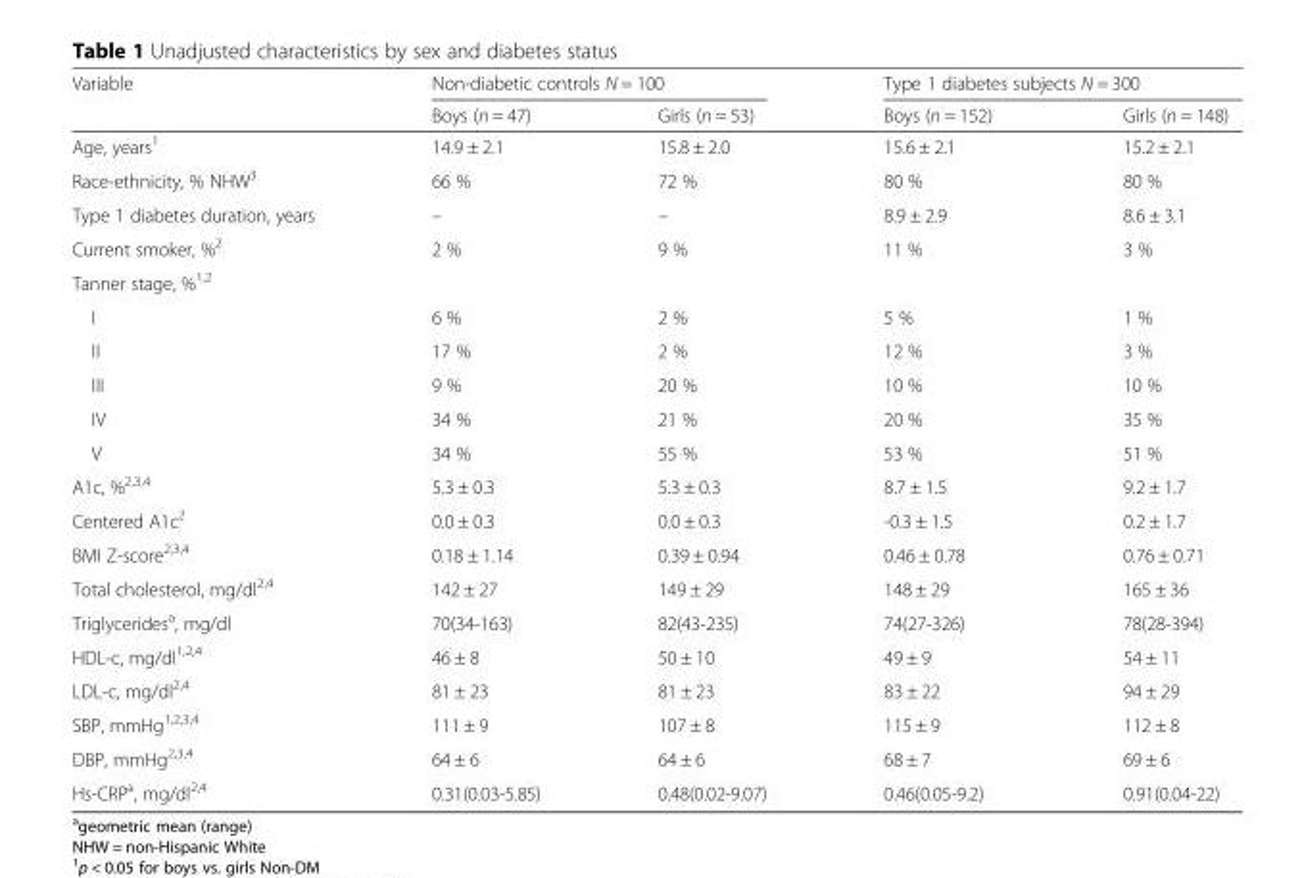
<table><thead><tr><td rowspan="2">Variable</td><td colspan="2">Non-diabetic controls N = 100</td><td colspan="2">Type 1 diabetes subjects N = 300</td></tr><tr><td>Boys (n = 47)</td><td>Girls (n = 53)</td><td>Boys (n = 152)</td><td>Girls (n = 148)</td></tr></thead><tbody><tr><td>Age, years<sup>1</sup></td><td>14.9 ± 2.1</td><td>15.8 ± 2.0</td><td>15.6 ± 2.1</td><td>15.2 ± 2.1</td></tr><tr><td>Race-ethnicity, % NHW<sup>3</sup></td><td>66 %</td><td>72 %</td><td>80 %</td><td>80 %</td></tr><tr><td>Type 1 diabetes duration, years</td><td>–</td><td>–</td><td>8.9 ± 2.9</td><td>8.6 ± 3.1</td></tr><tr><td>Current smoker, %<sup>2</sup></td><td>2 %</td><td>9 %</td><td>11 %</td><td>3 %</td></tr><tr><td colspan="5">Tanner stage, %<sup>1,2</sup></td></tr><tr><td>I</td><td>6 %</td><td>2 %</td><td>5 %</td><td>1 %</td></tr><tr><td>II</td><td>17 %</td><td>2 %</td><td>12 %</td><td>3 %</td></tr><tr><td>III</td><td>9 %</td><td>20 %</td><td>10 %</td><td>10 %</td></tr><tr><td>IV</td><td>34 %</td><td>21 %</td><td>20 %</td><td>35 %</td></tr><tr><td>V</td><td>34 %</td><td>55 %</td><td>53 %</td><td>51 %</td></tr><tr><td>A1c, %<sup>2,3,4</sup></td><td>5.3 ± 0.3</td><td>5.3 ± 0.3</td><td>8.7 ± 1.5</td><td>9.2 ± 1.7</td></tr><tr><td>Centered A1c<sup>2</sup></td><td>0.0 ± 0.3</td><td>0.0 ± 0.3</td><td>-0.3 ± 1.5</td><td>0.2 ± 1.7</td></tr><tr><td>BMI Z-score<sup>2,3,4</sup></td><td>0.18 ± 1.14</td><td>0.39 ± 0.94</td><td>0.46 ± 0.78</td><td>0.76 ± 0.71</td></tr><tr><td>Total cholesterol, mg/dl<sup>2,4</sup></td><td>142 ± 27</td><td>149 ± 29</td><td>148 ± 29</td><td>165 ± 36</td></tr><tr><td>Triglycerides<sup>a</sup>, mg/dl</td><td>70(34-163)</td><td>82(43-235)</td><td>74(27-326)</td><td>78(28-394)</td></tr><tr><td>HDL-c, mg/dl<sup>1,2,4</sup></td><td>46 ± 8</td><td>50 ± 10</td><td>49 ± 9</td><td>54 ± 11</td></tr><tr><td>LDL-c, mg/dl<sup>2,4</sup></td><td>81 ± 23</td><td>81 ± 23</td><td>83 ± 22</td><td>94 ± 29</td></tr><tr><td>SBP, mmHg<sup>1,2,3,4</sup></td><td>111 ± 9</td><td>107 ± 8</td><td>115 ± 9</td><td>112 ± 8</td></tr><tr><td>DBP, mmHg<sup>2,3,4</sup></td><td>64 ± 6</td><td>64 ± 6</td><td>68 ± 7</td><td>69 ± 6</td></tr><tr><td>Hs-CRP<sup>a</sup>, mg/dl<sup>2,4</sup></td><td>0.31(0.03-5.85)</td><td>0.48(0.02-9.07)</td><td>0.46(0.05-9.2)</td><td>0.91(0.04-22)</td></tr></tbody></table>